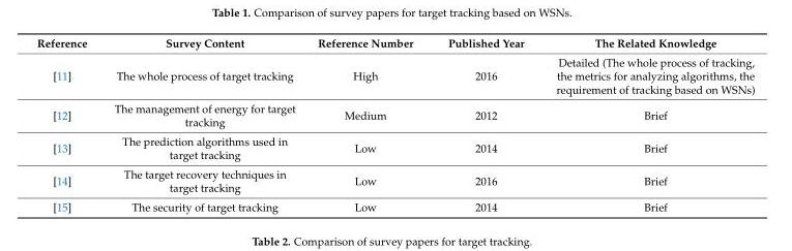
<table><thead><tr><td>Reference</td><td>Survey Content</td><td>Reference Number</td><td>Published Year</td><td>The Related Knowledge</td></tr></thead><tbody><tr><td>[11]</td><td>The whole process of target tracking</td><td>High</td><td>2016</td><td>Detailed (The whole process of tracking, the metrics for analyzing algorithms, the requirement of tracking based on WSNs)</td></tr><tr><td>[12]</td><td>The management of energy for target tracking</td><td>Medium</td><td>2012</td><td>Brief</td></tr><tr><td>[13]</td><td>The prediction algorithms used in target tracking</td><td>Low</td><td>2014</td><td>Brief</td></tr><tr><td>[14]</td><td>The target recovery techniques in target tracking</td><td>Low</td><td>2016</td><td>Brief</td></tr><tr><td>[15]</td><td>The security of target tracking</td><td>Low</td><td>2014</td><td>Brief</td></tr></tbody></table>